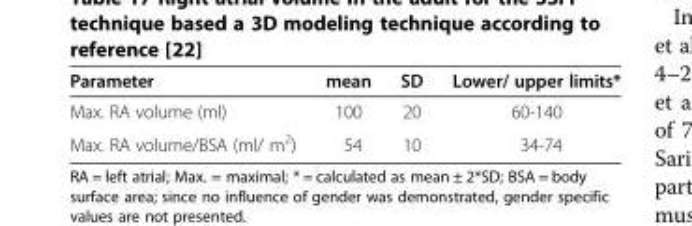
<table><thead><tr><td>Parameter</td><td>mean</td><td>SD</td><td>Lower/ upper limits*</td></tr></thead><tbody><tr><td>Max. RA volume (ml)</td><td>100</td><td>20</td><td>60-140</td></tr><tr><td>Max. RA volume/BSA (ml/ m<sup>2</sup>)</td><td>54</td><td>10</td><td>34-74</td></tr></tbody></table>